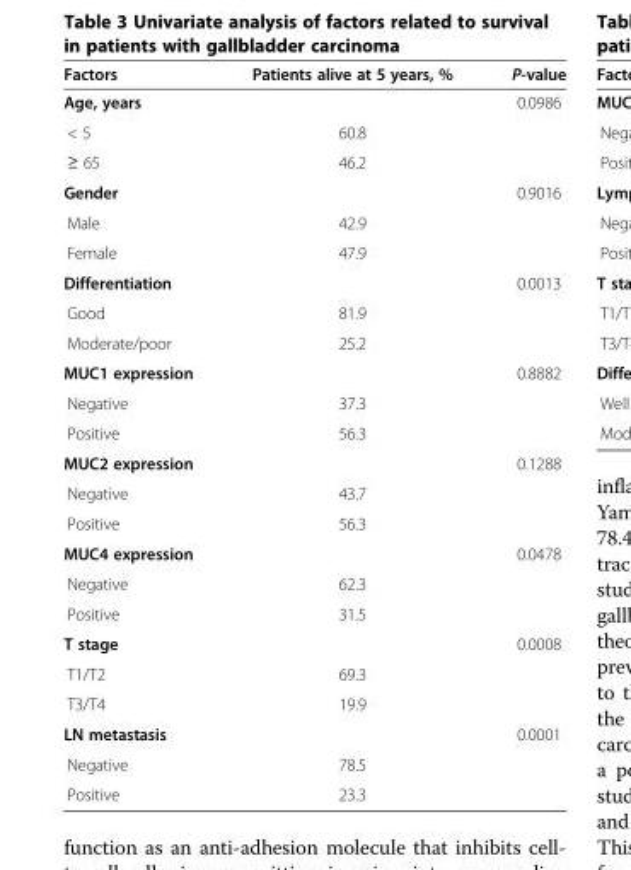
<table><thead><tr><td>Factors</td><td>Patients alive at 5 years, %</td><td>P-value</td></tr></thead><tbody><tr><td>Age, years</td><td></td><td>0.0986</td></tr><tr><td>&lt; 5</td><td>60.8</td><td></td></tr><tr><td>≥ 65</td><td>46.2</td><td></td></tr><tr><td>Gender</td><td></td><td>0.9016</td></tr><tr><td>Male</td><td>42.9</td><td></td></tr><tr><td>Female</td><td>47.9</td><td></td></tr><tr><td>Differentiation</td><td></td><td>0.0013</td></tr><tr><td>Good</td><td>81.9</td><td></td></tr><tr><td>Moderate/poor</td><td>25.2</td><td></td></tr><tr><td>MUC1 expression</td><td></td><td>0.8882</td></tr><tr><td>Negative</td><td>37.3</td><td></td></tr><tr><td>Positive</td><td>56.3</td><td></td></tr><tr><td>MUC2 expression</td><td></td><td>0.1288</td></tr><tr><td>Negative</td><td>43.7</td><td></td></tr><tr><td>Positive</td><td>56.3</td><td></td></tr><tr><td>MUC4 expression</td><td></td><td>0.0478</td></tr><tr><td>Negative</td><td>62.3</td><td></td></tr><tr><td>Positive</td><td>31.5</td><td></td></tr><tr><td>T stage</td><td></td><td>0.0008</td></tr><tr><td>T1/T2</td><td>69.3</td><td></td></tr><tr><td>T3/T4</td><td>19.9</td><td></td></tr><tr><td>LN metastasis</td><td></td><td>0.0001</td></tr><tr><td>Negative</td><td>78.5</td><td></td></tr><tr><td>Positive</td><td>23.3</td><td></td></tr></tbody></table>